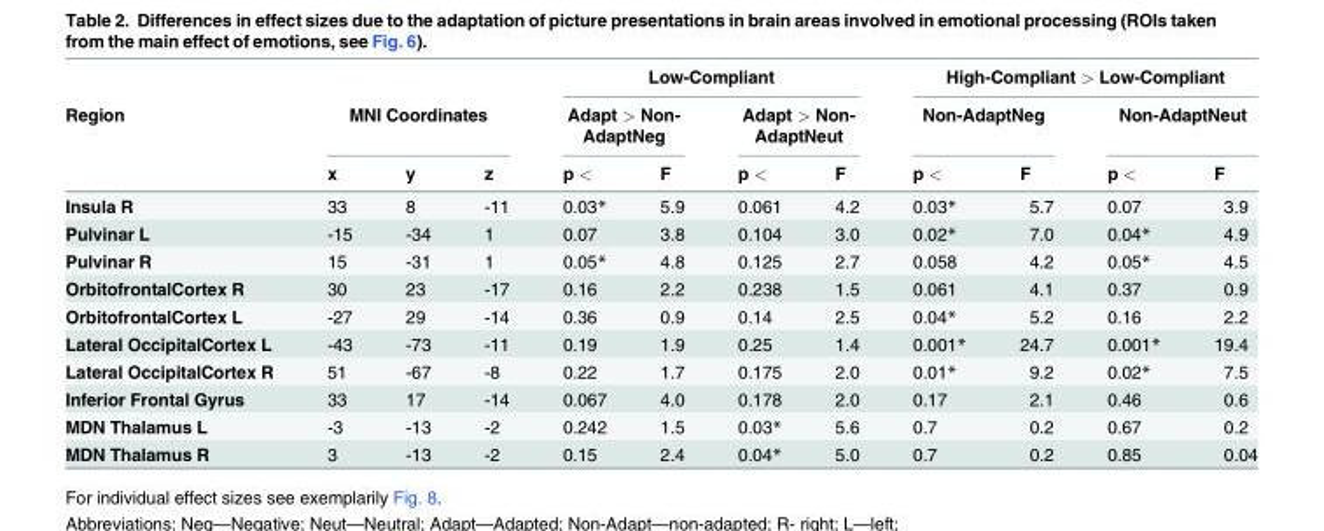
<table><thead><tr><td rowspan="3">Region</td><td></td><td></td><td></td><td colspan="4">Low-Compliant</td><td colspan="4">High-Compliant &gt; Low-Compliant</td></tr><tr><td colspan="3">MNI Coordinates</td><td colspan="2">Adapt &gt; Non- AdaptNeg</td><td colspan="2">Adapt &gt; Non- AdaptNeut</td><td colspan="2">Non-AdaptNeg</td><td colspan="2">Non-AdaptNeut</td></tr><tr><td>x</td><td>y</td><td>z</td><td>p &lt;</td><td>F</td><td>p &lt;</td><td>F</td><td>p &lt;</td><td>F</td><td>p &lt;</td><td>F</td></tr></thead><tbody><tr><td>Insula R</td><td>33</td><td>8</td><td>-11</td><td>0.03*</td><td>5.9</td><td>0.061</td><td>4.2</td><td>0.03*</td><td>5.7</td><td>0.07</td><td>3.9</td></tr><tr><td>Pulvinar L</td><td>-15</td><td>-34</td><td>1</td><td>0.07</td><td>3.8</td><td>0.104</td><td>3.0</td><td>0.02*</td><td>7.0</td><td>0.04*</td><td>4.9</td></tr><tr><td>Pulvinar R</td><td>15</td><td>-31</td><td>1</td><td>0.05*</td><td>4.8</td><td>0.125</td><td>2.7</td><td>0.058</td><td>4.2</td><td>0.05*</td><td>4.5</td></tr><tr><td>OrbitofrontalCortex R</td><td>30</td><td>23</td><td>-17</td><td>0.16</td><td>2.2</td><td>0.238</td><td>1.5</td><td>0.061</td><td>4.1</td><td>0.37</td><td>0.9</td></tr><tr><td>OrbitofrontalCortex L</td><td>-27</td><td>29</td><td>-14</td><td>0.36</td><td>0.9</td><td>0.14</td><td>2.5</td><td>0.04*</td><td>5.2</td><td>0.16</td><td>2.2</td></tr><tr><td>Lateral OccipitalCortex L</td><td>-43</td><td>-73</td><td>-11</td><td>0.19</td><td>1.9</td><td>0.25</td><td>1.4</td><td>0.001*</td><td>24.7</td><td>0.001*</td><td>19.4</td></tr><tr><td>Lateral OccipitalCortex R</td><td>51</td><td>-67</td><td>-8</td><td>0.22</td><td>1.7</td><td>0.175</td><td>2.0</td><td>0.01*</td><td>9.2</td><td>0.02*</td><td>7.5</td></tr><tr><td>Inferior Frontal Gyrus</td><td>33</td><td>17</td><td>-14</td><td>0.067</td><td>4.0</td><td>0.178</td><td>2.0</td><td>0.17</td><td>2.1</td><td>0.46</td><td>0.6</td></tr><tr><td>MDN Thalamus L</td><td>-3</td><td>-13</td><td>-2</td><td>0.242</td><td>1.5</td><td>0.03*</td><td>5.6</td><td>0.7</td><td>0.2</td><td>0.67</td><td>0.2</td></tr><tr><td>MDN Thalamus R</td><td>3</td><td>-13</td><td>-2</td><td>0.15</td><td>2.4</td><td>0.04*</td><td>5.0</td><td>0.7</td><td>0.2</td><td>0.85</td><td>0.04</td></tr></tbody></table>